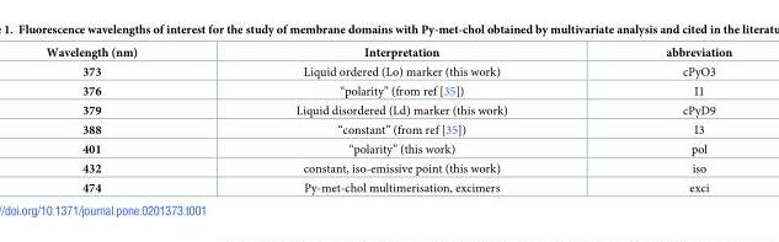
<table><thead><tr><td>Wavelength (nm)</td><td>Interpretation</td><td>abbreviation</td></tr></thead><tbody><tr><td>373</td><td>Liquid ordered (Lo) marker (this work)</td><td>cPyO3</td></tr><tr><td>376</td><td>“polarity” (from ref [35])</td><td>I1</td></tr><tr><td>379</td><td>Liquid disordered (Ld) marker (this work)</td><td>cPyD9</td></tr><tr><td>388</td><td>“constant” (from ref [35])</td><td>I3</td></tr><tr><td>401</td><td>“polarity” (this work)</td><td>pol</td></tr><tr><td>432</td><td>constant, iso-emissive point (this work)</td><td>iso</td></tr><tr><td>474</td><td>Py-met-chol multimerisation, excimers</td><td>exci</td></tr></tbody></table>